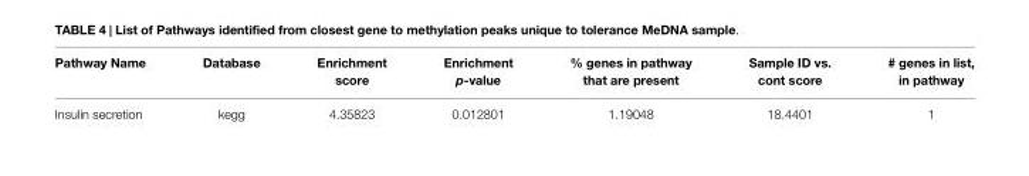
<table><thead><tr><td>Pathway Name</td><td>Database</td><td>Enrichment score</td><td>Enrichment p-value</td><td>% genes in pathway that are present</td><td>Sample ID vs. cont score</td><td># genes in list, in pathway</td></tr></thead><tbody><tr><td>Insulin secretion</td><td>kegg</td><td>4.35823</td><td>0.012801</td><td>1.19048</td><td>18.4401</td><td>1</td></tr></tbody></table>